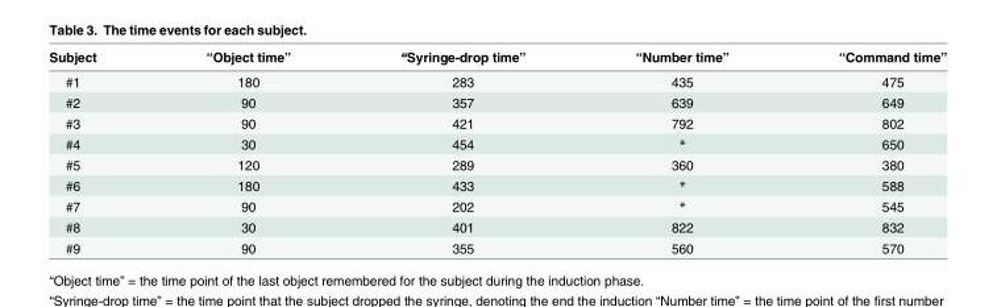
<table><thead><tr><td>Subject</td><td>“Object time”</td><td>“Syringe-drop time”</td><td>“Number time”</td><td>“Command time”</td></tr></thead><tbody><tr><td>#1</td><td>180</td><td>283</td><td>435</td><td>475</td></tr><tr><td>#2</td><td>90</td><td>357</td><td>639</td><td>649</td></tr><tr><td>#3</td><td>90</td><td>421</td><td>792</td><td>802</td></tr><tr><td>#4</td><td>30</td><td>454</td><td>*</td><td>650</td></tr><tr><td>#5</td><td>120</td><td>289</td><td>360</td><td>380</td></tr><tr><td>#6</td><td>180</td><td>433</td><td>*</td><td>588</td></tr><tr><td>#7</td><td>90</td><td>202</td><td>*</td><td>545</td></tr><tr><td>#8</td><td>30</td><td>401</td><td>822</td><td>832</td></tr><tr><td>#9</td><td>90</td><td>355</td><td>560</td><td>570</td></tr></tbody></table>